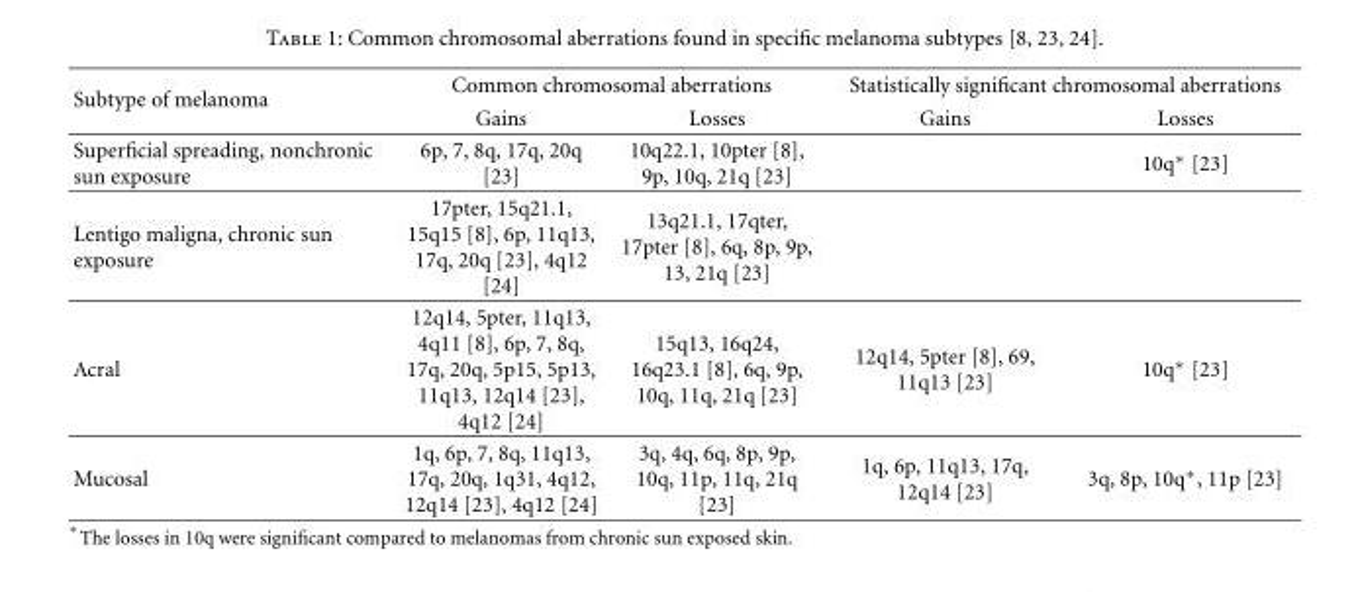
<table><thead><tr><td rowspan="2">Subtype of melanoma</td><td colspan="2">Common chromosomal aberrations</td><td colspan="2">Statistically significant chromosomal aberrations</td></tr><tr><td>Gains</td><td>Losses</td><td>Gains</td><td>Losses</td></tr></thead><tbody><tr><td>Superficial spreading, nonchronic sun exposure</td><td>6p, 7, 8q, 17q, 20q [23]</td><td>10q22.1, 10pter [8], 9p, 10q, 21q [23]</td><td></td><td>10q∗ [23]</td></tr><tr><td>Lentigo maligna, chronic sun exposure</td><td>17pter, 15q21.1, 15q15 [8], 6p, 11q13, 17q, 20q [23], 4q12 [24]</td><td>13q21.1, 17qter, 17pter [8], 6q, 8p, 9p, 13, 21q [23]</td><td></td><td></td></tr><tr><td>Acral</td><td>12q14, 5pter, 11q13, 4q11 [8], 6p, 7, 8q, 17q, 20q, 5p15, 5p13, 11q13, 12q14 [23], 4q12 [24]</td><td>15q13, 16q24, 16q23.1 [8], 6q, 9p, 10q, 11q, 21q [23]</td><td>12q14, 5pter [8], 69, 11q13 [23]</td><td>10q∗ [23]</td></tr><tr><td>Mucosal</td><td>1q, 6p, 7, 8q, 11q13, 17q, 20q, 1q31, 4q12, 12q14 [23], 4q12 [24]</td><td>3q, 4q, 6q, 8p, 9p, 10q, 11p, 11q, 21q [23]</td><td>1q, 6p, 11q13, 17q, 12q14 [23]</td><td>3q, 8p, 10q∗, 11p [23]</td></tr></tbody></table>